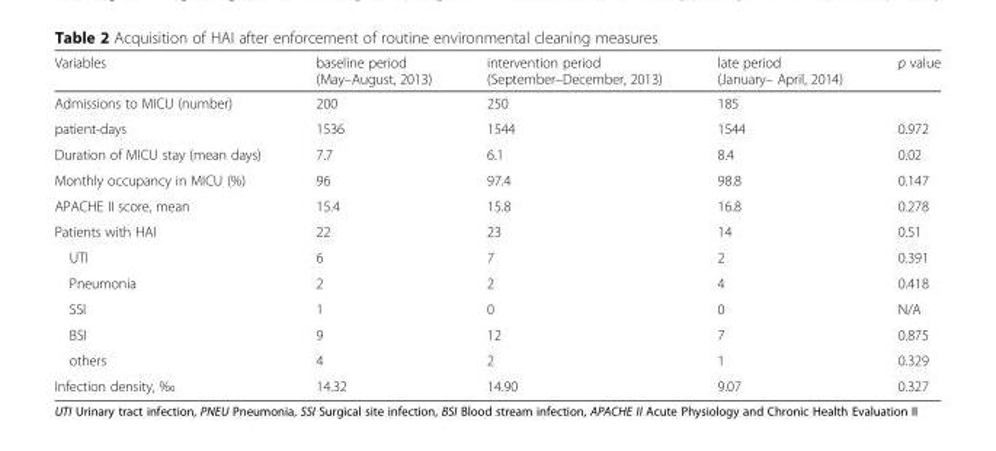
<table><thead><tr><td>Variables</td><td>baseline period (May–August, 2013)</td><td>intervention period (September–December, 2013)</td><td>late period (January– April, 2014)</td><td>p value</td></tr></thead><tbody><tr><td>Admissions to MICU (number)</td><td>200</td><td>250</td><td>185</td><td></td></tr><tr><td>patient-days</td><td>1536</td><td>1544</td><td>1544</td><td>0.972</td></tr><tr><td>Duration of MICU stay (mean days)</td><td>7.7</td><td>6.1</td><td>8.4</td><td>0.02</td></tr><tr><td>Monthly occupancy in MICU (%)</td><td>96</td><td>97.4</td><td>98.8</td><td>0.147</td></tr><tr><td>APACHE II score, mean</td><td>15.4</td><td>15.8</td><td>16.8</td><td>0.278</td></tr><tr><td>Patients with HAI</td><td>22</td><td>23</td><td>14</td><td>0.51</td></tr><tr><td>UTI</td><td>6</td><td>7</td><td>2</td><td>0.391</td></tr><tr><td>Pneumonia</td><td>2</td><td>2</td><td>4</td><td>0.418</td></tr><tr><td>SSI</td><td>1</td><td>0</td><td>0</td><td>N/A</td></tr><tr><td>BSI</td><td>9</td><td>12</td><td>7</td><td>0.875</td></tr><tr><td>others</td><td>4</td><td>2</td><td>1</td><td>0.329</td></tr><tr><td>Infection density, ‰</td><td>14.32</td><td>14.90</td><td>9.07</td><td>0.327</td></tr></tbody></table>